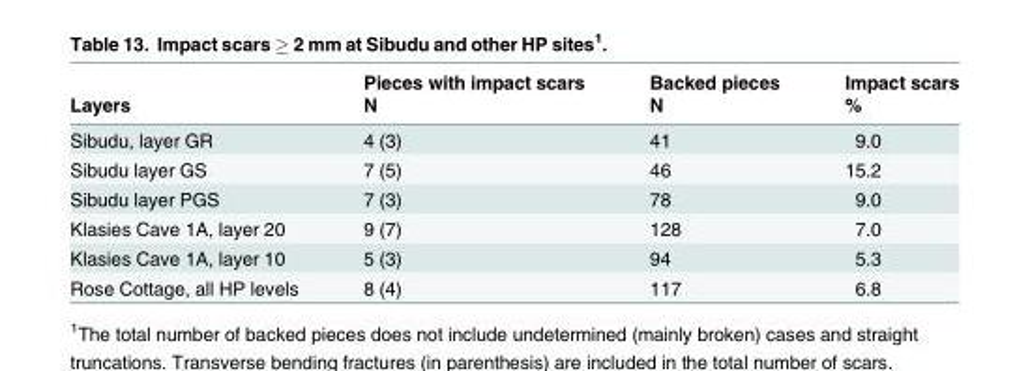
<table><thead><tr><td rowspan="2">Layers</td><td rowspan="2">Pieces with impact scars N</td><td rowspan="2">Backed pieces N</td><td rowspan="2">Impact scars %</td></tr><tr></tr></thead><tbody><tr><td>Sibudu, layer GR</td><td>4 (3)</td><td>41</td><td>9.0</td></tr><tr><td>Sibudu layer GS</td><td>7 (5)</td><td>46</td><td>15.2</td></tr><tr><td>Sibudu layer PGS</td><td>7 (3)</td><td>78</td><td>9.0</td></tr><tr><td>Klasies Cave 1A, layer 20</td><td>9 (7)</td><td>128</td><td>7.0</td></tr><tr><td>Klasies Cave 1A, layer 10</td><td>5 (3)</td><td>94</td><td>5.3</td></tr><tr><td>Rose Cottage, all HP levels</td><td>8 (4)</td><td>117</td><td>6.8</td></tr></tbody></table>